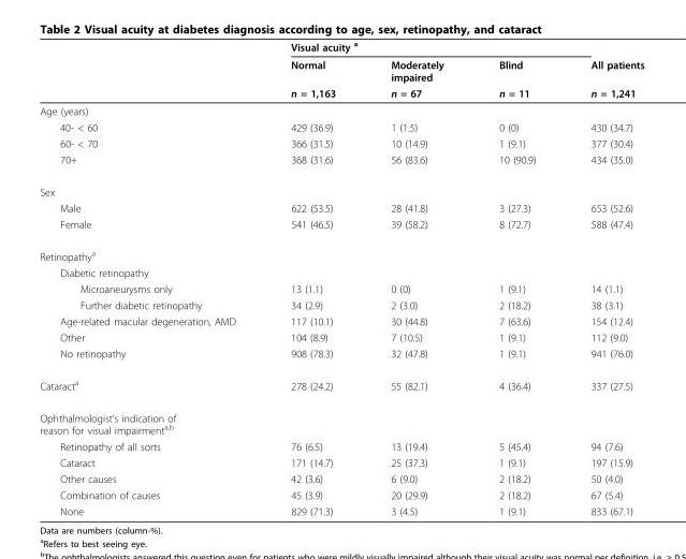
<table><thead><tr><td rowspan="3"></td><td colspan="3">Visual acuity <sup>a</sup></td><td rowspan="3">All patients n = 1,241</td></tr><tr><td rowspan="2">Normal n = 1,163</td><td rowspan="2">Moderately impaired n = 67</td><td rowspan="2">Blind n = 11</td></tr><tr></tr></thead><tbody><tr><td colspan="5">Age (years)</td></tr><tr><td>40- &lt; 60</td><td>429 (36.9)</td><td>1 (1.5)</td><td>0 (0)</td><td>430 (34.7)</td></tr><tr><td>60- &lt; 70</td><td>366 (31.5)</td><td>10 (14.9)</td><td>1 (9.1)</td><td>377 (30.4)</td></tr><tr><td>70+</td><td>368 (31.6)</td><td>56 (83.6)</td><td>10 (90.9)</td><td>434 (35.0)</td></tr><tr><td colspan="5">Sex</td></tr><tr><td>Male</td><td>622 (53.5)</td><td>28 (41.8)</td><td>3 (27.3)</td><td>653 (52.6)</td></tr><tr><td>Female</td><td>541 (46.5)</td><td>39 (58.2)</td><td>8 (72.7)</td><td>588 (47.4)</td></tr><tr><td colspan="5">Retinopathy<sup>a</sup></td></tr><tr><td colspan="5">Diabetic retinopathy</td></tr><tr><td>Microaneurysms only</td><td>13 (1.1)</td><td>0 (0)</td><td>1 (9.1)</td><td>14 (1.1)</td></tr><tr><td>Further diabetic retinopathy</td><td>34 (2.9)</td><td>2 (3.0)</td><td>2 (18.2)</td><td>38 (3.1)</td></tr><tr><td>Age-related macular degeneration, AMD</td><td>117 (10.1)</td><td>30 (44.8)</td><td>7 (63.6)</td><td>154 (12.4)</td></tr><tr><td>Other</td><td>104 (8.9)</td><td>7 (10.5)</td><td>1 (9.1)</td><td>112 (9.0)</td></tr><tr><td>No retinopathy</td><td>908 (78.3)</td><td>32 (47.8)</td><td>1 (9.1)</td><td>941 (76.0)</td></tr><tr><td>Cataract<sup>a</sup></td><td>278 (24.2)</td><td>55 (82.1)</td><td>4 (36.4)</td><td>337 (27.5)</td></tr><tr><td colspan="5">Ophthalmologist’s indication of reason for visual impairment<sup>a,b</sup></td></tr><tr><td>Retinopathy of all sorts</td><td>76 (6.5)</td><td>13 (19.4)</td><td>5 (45.4)</td><td>94 (7.6)</td></tr><tr><td>Cataract</td><td>171 (14.7)</td><td>25 (37.3)</td><td>1 (9.1)</td><td>197 (15.9)</td></tr><tr><td>Other causes</td><td>42 (3.6)</td><td>6 (9.0)</td><td>2 (18.2)</td><td>50 (4.0)</td></tr><tr><td>Combination of causes</td><td>45 (3.9)</td><td>20 (29.9)</td><td>2 (18.2)</td><td>67 (5.4)</td></tr><tr><td>None</td><td>829 (71.3)</td><td>3 (4.5)</td><td>1 (9.1)</td><td>833 (67.1)</td></tr></tbody></table>